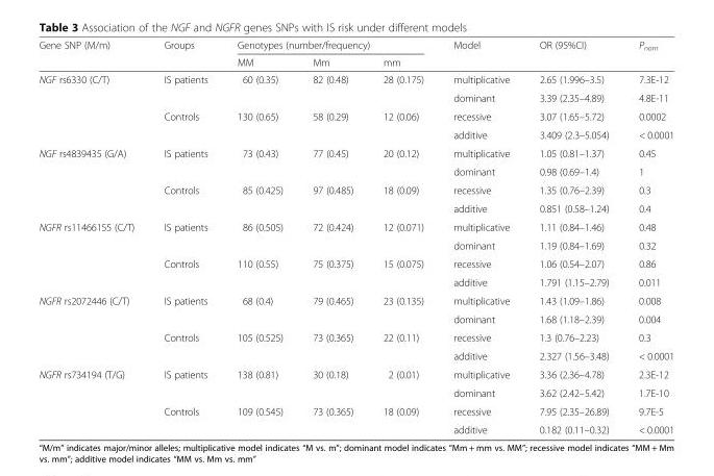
<table><thead><tr><td rowspan="2">Gene SNP (M/m)</td><td rowspan="2">Groups</td><td colspan="3">Genotypes (number/frequency)</td><td rowspan="2">Model</td><td rowspan="2">OR (95%CI)</td><td rowspan="2">P<sub>nom</sub></td></tr><tr><td>MM</td><td>Mm</td><td>mm</td></tr></thead><tbody><tr><td rowspan="4">NGF rs6330 (C/T)</td><td rowspan="2">IS patients</td><td rowspan="2">60 (0.35)</td><td rowspan="2">82 (0.48)</td><td rowspan="2">28 (0.175)</td><td>multiplicative</td><td>2.65 (1.996–3.5)</td><td>7.3E-12</td></tr><tr><td>dominant</td><td>3.39 (2.35–4.89)</td><td>4.8E-11</td></tr><tr><td rowspan="2">Controls</td><td rowspan="2">130 (0.65)</td><td rowspan="2">58 (0.29)</td><td rowspan="2">12 (0.06)</td><td>recessive</td><td>3.07 (1.65–5.72)</td><td>0.0002</td></tr><tr><td>additive</td><td>3.409 (2.3–5.054)</td><td>&lt; 0.0001</td></tr><tr><td rowspan="4">NGF rs4839435 (G/A)</td><td rowspan="2">IS patients</td><td rowspan="2">73 (0.43)</td><td rowspan="2">77 (0.45)</td><td rowspan="2">20 (0.12)</td><td>multiplicative</td><td>1.05 (0.81–1.37)</td><td>0.45</td></tr><tr><td>dominant</td><td>0.98 (0.69–1.4)</td><td>1</td></tr><tr><td rowspan="2">Controls</td><td rowspan="2">85 (0.425)</td><td rowspan="2">97 (0.485)</td><td rowspan="2">18 (0.09)</td><td>recessive</td><td>1.35 (0.76–2.39)</td><td>0.3</td></tr><tr><td>additive</td><td>0.851 (0.58–1.24)</td><td>0.4</td></tr><tr><td rowspan="4">NGFR rs11466155 (C/T)</td><td rowspan="2">IS patients</td><td rowspan="2">86 (0.505)</td><td rowspan="2">72 (0.424)</td><td rowspan="2">12 (0.071)</td><td>multiplicative</td><td>1.11 (0.84–1.46)</td><td>0.48</td></tr><tr><td>dominant</td><td>1.19 (0.84–1.69)</td><td>0.32</td></tr><tr><td rowspan="2">Controls</td><td rowspan="2">110 (0.55)</td><td rowspan="2">75 (0.375)</td><td rowspan="2">15 (0.075)</td><td>recessive</td><td>1.06 (0.54–2.07)</td><td>0.86</td></tr><tr><td>additive</td><td>1.791 (1.15–2.79)</td><td>0.011</td></tr><tr><td rowspan="4">NGFR rs2072446 (C/T)</td><td rowspan="2">IS patients</td><td rowspan="2">68 (0.4)</td><td rowspan="2">79 (0.465)</td><td rowspan="2">23 (0.135)</td><td>multiplicative</td><td>1.43 (1.09–1.86)</td><td>0.008</td></tr><tr><td>dominant</td><td>1.68 (1.18–2.39)</td><td>0.004</td></tr><tr><td rowspan="2">Controls</td><td rowspan="2">105 (0.525)</td><td rowspan="2">73 (0.365)</td><td rowspan="2">22 (0.11)</td><td>recessive</td><td>1.3 (0.76–2.23)</td><td>0.3</td></tr><tr><td>additive</td><td>2.327 (1.56–3.48)</td><td>&lt; 0.0001</td></tr><tr><td rowspan="4">NGFR rs734194 (T/G)</td><td rowspan="2">IS patients</td><td rowspan="2">138 (0.81)</td><td rowspan="2">30 (0.18)</td><td rowspan="2">2 (0.01)</td><td>multiplicative</td><td>3.36 (2.36–4.78)</td><td>2.3E-12</td></tr><tr><td>dominant</td><td>3.62 (2.42–5.42)</td><td>1.7E-10</td></tr><tr><td rowspan="2">Controls</td><td rowspan="2">109 (0.545)</td><td rowspan="2">73 (0.365)</td><td rowspan="2">18 (0.09)</td><td>recessive</td><td>7.95 (2.35–26.89)</td><td>9.7E-5</td></tr><tr><td>additive</td><td>0.182 (0.11–0.32)</td><td>&lt; 0.0001</td></tr></tbody></table>